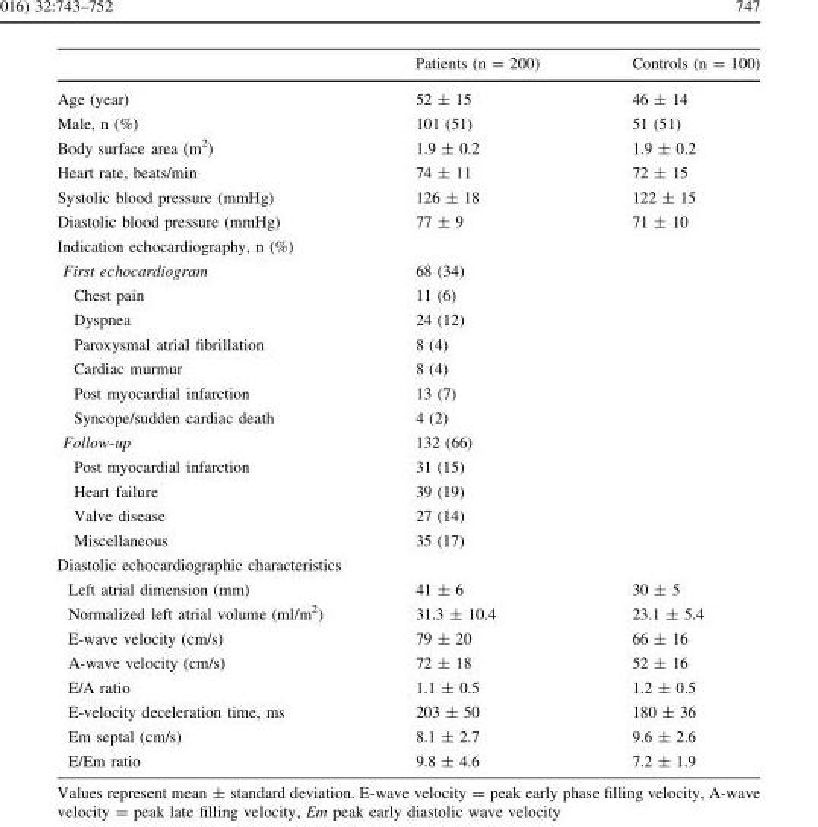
<table><thead><tr><td></td><td>Patients (n = 200)</td><td>Controls (n = 100)</td></tr></thead><tbody><tr><td>Age (year)</td><td>52 ± 15</td><td>46 ± 14</td></tr><tr><td>Male, n (%)</td><td>101 (51)</td><td>51 (51)</td></tr><tr><td>Body surface area (m<sup>2</sup>)</td><td>1.9 ± 0.2</td><td>1.9 ± 0.2</td></tr><tr><td>Heart rate, beats/min</td><td>74 ± 11</td><td>72 ± 15</td></tr><tr><td>Systolic blood pressure (mmHg)</td><td>126 ± 18</td><td>122 ± 15</td></tr><tr><td>Diastolic blood pressure (mmHg)</td><td>77 ± 9</td><td>71 ± 10</td></tr><tr><td colspan="3">Indication echocardiography, n (%)</td></tr><tr><td>First echocardiogram</td><td>68 (34)</td><td></td></tr><tr><td>Chest pain</td><td>11 (6)</td><td></td></tr><tr><td>Dyspnea</td><td>24 (12)</td><td></td></tr><tr><td>Paroxysmal atrial fibrillation</td><td>8 (4)</td><td></td></tr><tr><td>Cardiac murmur</td><td>8 (4)</td><td></td></tr><tr><td>Post myocardial infarction</td><td>13 (7)</td><td></td></tr><tr><td>Syncope/sudden cardiac death</td><td>4 (2)</td><td></td></tr><tr><td>Follow-up</td><td>132 (66)</td><td></td></tr><tr><td>Post myocardial infarction</td><td>31 (15)</td><td></td></tr><tr><td>Heart failure</td><td>39 (19)</td><td></td></tr><tr><td>Valve disease</td><td>27 (14)</td><td></td></tr><tr><td>Miscellaneous</td><td>35 (17)</td><td></td></tr><tr><td colspan="3">Diastolic echocardiographic characteristics</td></tr><tr><td>Left atrial dimension (mm)</td><td>41 ± 6</td><td>30 ± 5</td></tr><tr><td>Normalized left atrial volume (ml/m<sup>2</sup>)</td><td>31.3 ± 10.4</td><td>23.1 ± 5.4</td></tr><tr><td>E-wave velocity (cm/s)</td><td>79 ± 20</td><td>66 ± 16</td></tr><tr><td>A-wave velocity (cm/s)</td><td>72 ± 18</td><td>52 ± 16</td></tr><tr><td>E/A ratio</td><td>1.1 ± 0.5</td><td>1.2 ± 0.5</td></tr><tr><td>E-velocity deceleration time, ms</td><td>203 ± 50</td><td>180 ± 36</td></tr><tr><td>Em septal (cm/s)</td><td>8.1 ± 2.7</td><td>9.6 ± 2.6</td></tr><tr><td>E/Em ratio</td><td>9.8 ± 4.6</td><td>7.2 ± 1.9</td></tr></tbody></table>